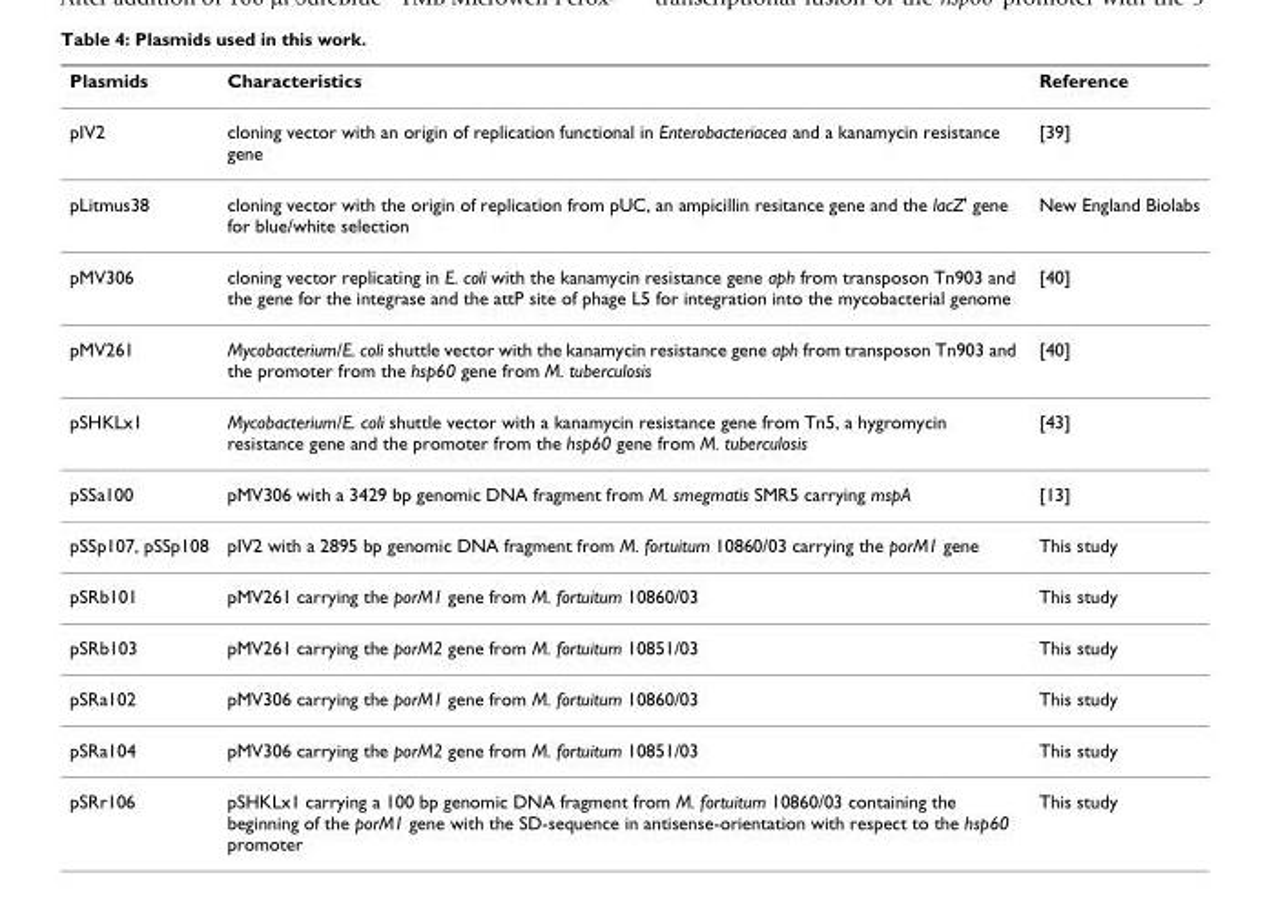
<table><thead><tr><td>Plasmids</td><td>Characteristics</td><td>Reference</td></tr></thead><tbody><tr><td>pIV2</td><td>cloning vector with an origin of replication functional in Enterobacteriacea and a kanamycin resistance gene</td><td>[39]</td></tr><tr><td>pLitmus38</td><td>cloning vector with the origin of replication from pUC, an ampicillin resitance gene and the lacZ&#x27; gene for blue/white selection</td><td>New England Biolabs</td></tr><tr><td>pMV306</td><td>cloning vector replicating in E. coli with the kanamycin resistance gene aph from transposon Tn903 and the gene for the integrase and the attP site of phage L5 for integration into the mycobacterial genome</td><td>[40]</td></tr><tr><td>pMV261</td><td>Mycobacterium/E. coli shuttle vector with the kanamycin resistance gene aph from transposon Tn903 and the promoter from the hsp60 gene from M. tuberculosis</td><td>[40]</td></tr><tr><td>pSHKLx1</td><td>Mycobacterium/E. coli shuttle vector with a kanamycin resistance gene from Tn5, a hygromycin resistance gene and the promoter from the hsp60 gene from M. tuberculosis</td><td>[43]</td></tr><tr><td>pSSa100</td><td>pMV306 with a 3429 bp genomic DNA fragment from M. smegmatis SMR5 carrying mspA</td><td>[13]</td></tr><tr><td>pSSp107, pSSp108</td><td>pIV2 with a 2895 bp genomic DNA fragment from M. fortuitum 10860/03 carrying the porM1 gene</td><td>This study</td></tr><tr><td>pSRb101</td><td>pMV261 carrying the porM1 gene from M. fortuitum 10860/03</td><td>This study</td></tr><tr><td>pSRb103</td><td>pMV261 carrying the porM2 gene from M. fortuitum 10851/03</td><td>This study</td></tr><tr><td>pSRa102</td><td>pMV306 carrying the porM1 gene from M. fortuitum 10860/03</td><td>This study</td></tr><tr><td>pSRa104</td><td>pMV306 carrying the porM2 gene from M. fortuitum 10851/03</td><td>This study</td></tr><tr><td>pSRr106</td><td>pSHKLx1 carrying a 100 bp genomic DNA fragment from M. fortuitum 10860/03 containing the beginning of the porM1 gene with the SD-sequence in antisense-orientation with respect to the hsp60 promoter</td><td>This study</td></tr></tbody></table>